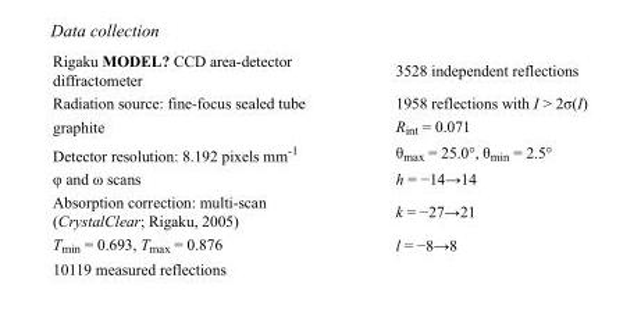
<table><tbody><tr><td>Rigaku MODEL? CCD area-detector diffractometer</td><td>3528 independent reflections</td></tr><tr><td>Radiation source: fine-focus sealed tube</td><td>1958 reflections with I &gt; 2σ(I)</td></tr><tr><td>graphite</td><td>R<sub>int</sub> = 0.071</td></tr><tr><td>Detector resolution: 8.192 pixels mm<sup>-1</sup></td><td>θ<sub>max</sub> = 25.0°, θ<sub>min</sub> = 2.5°</td></tr><tr><td>φ and ω scans</td><td>h = −14→14</td></tr><tr><td>Absorption correction: multi-scan (CrystalClear; Rigaku, 2005)</td><td>k = −27→21</td></tr><tr><td>T<sub>min</sub> = 0.693, T<sub>max</sub> = 0.876</td><td>l = −8→8</td></tr><tr><td>10119 measured reflections</td><td></td></tr></tbody></table>